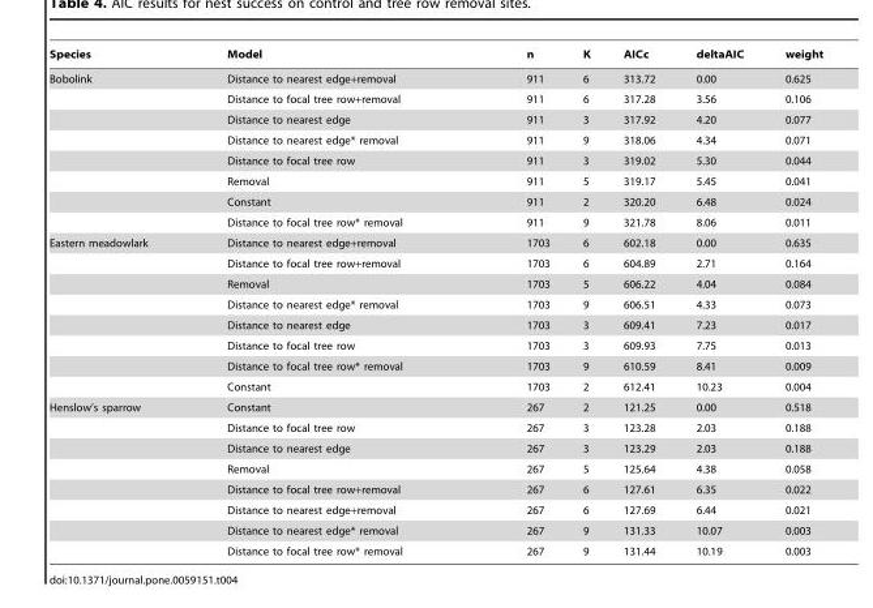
<table><thead><tr><td>Species</td><td>Model</td><td>n</td><td>K</td><td>AICc</td><td>deltaAIC</td><td>weight</td></tr></thead><tbody><tr><td rowspan="8">Bobolink</td><td>Distance to nearest edge+removal</td><td>911</td><td>6</td><td>313.72</td><td>0.00</td><td>0.625</td></tr><tr><td>Distance to focal tree row+removal</td><td>911</td><td>6</td><td>317.28</td><td>3.56</td><td>0.106</td></tr><tr><td>Distance to nearest edge</td><td>911</td><td>3</td><td>317.92</td><td>4.20</td><td>0.077</td></tr><tr><td>Distance to nearest edge* removal</td><td>911</td><td>9</td><td>318.06</td><td>4.34</td><td>0.071</td></tr><tr><td>Distance to focal tree row</td><td>911</td><td>3</td><td>319.02</td><td>5.30</td><td>0.044</td></tr><tr><td>Removal</td><td>911</td><td>5</td><td>319.17</td><td>5.45</td><td>0.041</td></tr><tr><td>Constant</td><td>911</td><td>2</td><td>320.20</td><td>6.48</td><td>0.024</td></tr><tr><td>Distance to focal tree row* removal</td><td>911</td><td>9</td><td>321.78</td><td>8.06</td><td>0.011</td></tr><tr><td rowspan="8">Eastern meadowlark</td><td>Distance to nearest edge+removal</td><td>1703</td><td>6</td><td>602.18</td><td>0.00</td><td>0.635</td></tr><tr><td>Distance to focal tree row+removal</td><td>1703</td><td>6</td><td>604.89</td><td>2.71</td><td>0.164</td></tr><tr><td>Removal</td><td>1703</td><td>5</td><td>606.22</td><td>4.04</td><td>0.084</td></tr><tr><td>Distance to nearest edge* removal</td><td>1703</td><td>9</td><td>606.51</td><td>4.33</td><td>0.073</td></tr><tr><td>Distance to nearest edge</td><td>1703</td><td>3</td><td>609.41</td><td>7.23</td><td>0.017</td></tr><tr><td>Distance to focal tree row</td><td>1703</td><td>3</td><td>609.93</td><td>7.75</td><td>0.013</td></tr><tr><td>Distance to focal tree row* removal</td><td>1703</td><td>9</td><td>610.59</td><td>8.41</td><td>0.009</td></tr><tr><td>Constant</td><td>1703</td><td>2</td><td>612.41</td><td>10.23</td><td>0.004</td></tr><tr><td rowspan="8">Henslow’s sparrow</td><td>Constant</td><td>267</td><td>2</td><td>121.25</td><td>0.00</td><td>0.518</td></tr><tr><td>Distance to focal tree row</td><td>267</td><td>3</td><td>123.28</td><td>2.03</td><td>0.188</td></tr><tr><td>Distance to nearest edge</td><td>267</td><td>3</td><td>123.29</td><td>2.03</td><td>0.188</td></tr><tr><td>Removal</td><td>267</td><td>5</td><td>125.64</td><td>4.38</td><td>0.058</td></tr><tr><td>Distance to focal tree row+removal</td><td>267</td><td>6</td><td>127.61</td><td>6.35</td><td>0.022</td></tr><tr><td>Distance to nearest edge+removal</td><td>267</td><td>6</td><td>127.69</td><td>6.44</td><td>0.021</td></tr><tr><td>Distance to nearest edge* removal</td><td>267</td><td>9</td><td>131.33</td><td>10.07</td><td>0.003</td></tr><tr><td>Distance to focal tree row* removal</td><td>267</td><td>9</td><td>131.44</td><td>10.19</td><td>0.003</td></tr></tbody></table>